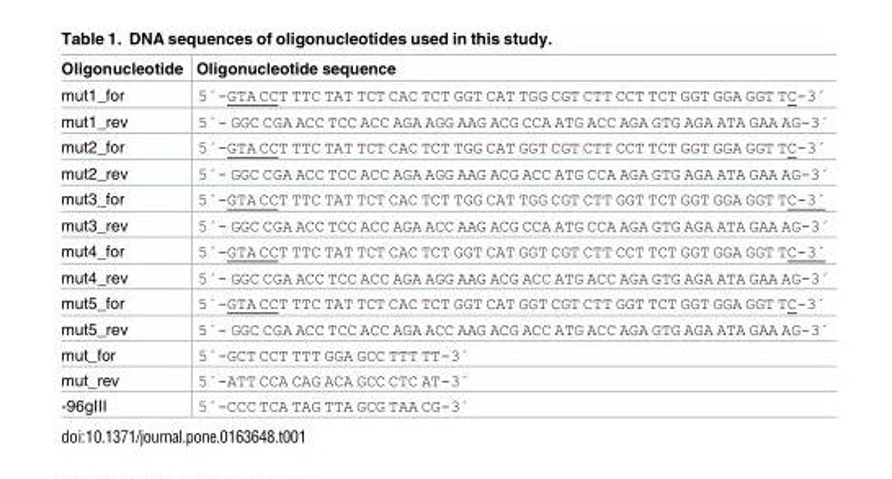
<table><thead><tr><td>Oligonucleotide</td><td>Oligonucleotide sequence</td></tr></thead><tbody><tr><td>mut1_for</td><td>5´-GTA CCT TTC TAT TCT CAC TCT GGT CAT TGG CGT CTT CCT TCT GGT GGA GGT TC-3´</td></tr><tr><td>mut1_rev</td><td>5´- GGC CGA ACC TCC ACC AGA AGG AAG ACG CCA ATG ACC AGA GTG AGA ATA GAA AG-3´</td></tr><tr><td>mut2_for</td><td>5´-GTA CCT TTC TAT TCT CAC TCT TGG CAT GGT CGT CTT CCT TCT GGT GGA GGT TC-3´</td></tr><tr><td>mut2_rev</td><td>5´- GGC CGA ACC TCC ACC AGA AGG AAG ACG ACC ATG CCA AGA GTG AGA ATA GAA AG-3´</td></tr><tr><td>mut3_for</td><td>5´-GTA CCT TTC TAT TCT CAC TCT TGG CAT TGG CGT CTT GGT TCT GGT GGA GGT TC-3´</td></tr><tr><td>mut3_rev</td><td>5´- GGC CGA ACC TCC ACC AGA ACC AAG ACG CCA ATG CCA AGA GTG AGA ATA GAA AG-3´</td></tr><tr><td>mut4_for</td><td>5´-GTA CCT TTC TAT TCT CAC TCT GGT CAT GGT CGT CTT CCT TCT GGT GGA GGT TC-3´</td></tr><tr><td>mut4_rev</td><td>5´- GGC CGA ACC TCC ACC AGA AGG AAG ACG ACC ATG ACC AGA GTG AGA ATA GAA AG-3´</td></tr><tr><td>mut5_for</td><td>5´-GTA CCT TTC TAT TCT CAC TCT GGT CAT GGT CGT CTT GGT TCT GGT GGA GGT TC-3´</td></tr><tr><td>mut5_rev</td><td>5´- GGC CGA ACC TCC ACC AGA ACC AAG ACG ACC ATG ACC AGA GTG AGA ATA GAA AG-3´</td></tr><tr><td>mut_for</td><td>5´-GCT CCT TTT GGA GCC TTT TT-3´</td></tr><tr><td>mut_rev</td><td>5´-ATT CCA CAG ACA GCC CTC AT-3´</td></tr><tr><td>-96gIII</td><td>5´-CCC TCA TAG TTA GCG TAA CG-3´</td></tr></tbody></table>